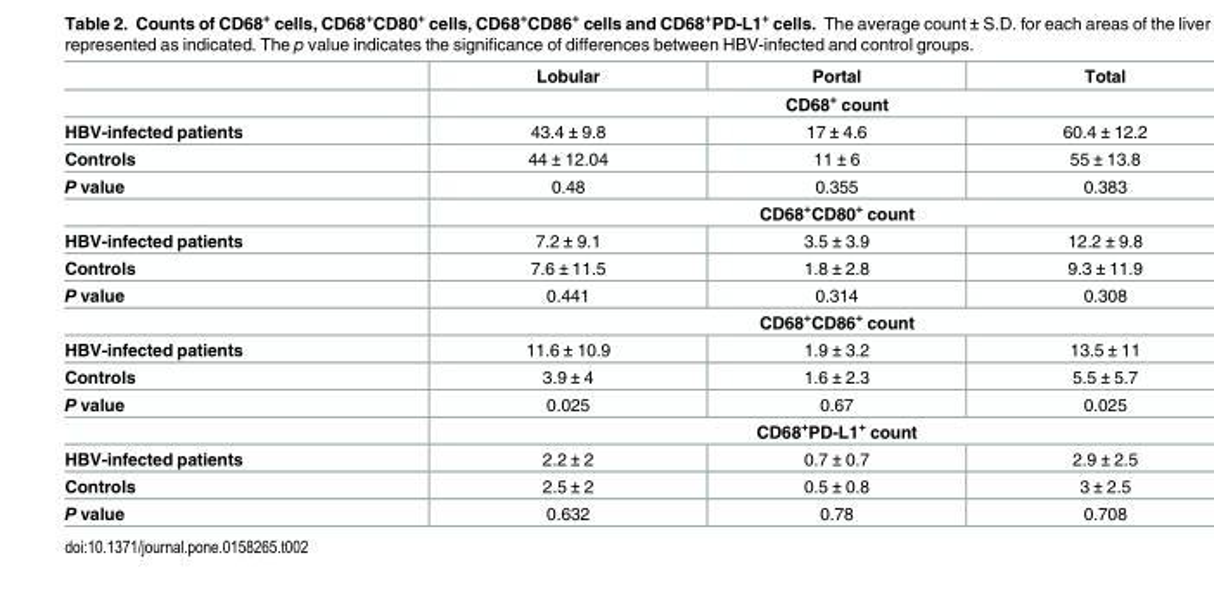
<table><thead><tr><td></td><td>Lobular</td><td>Portal</td><td>Total</td></tr></thead><tbody><tr><td></td><td colspan="3">CD68<sup>+</sup> count</td></tr><tr><td>HBV-infected patients</td><td>43.4 ± 9.8</td><td>17 ± 4.6</td><td>60.4 ± 12.2</td></tr><tr><td>Controls</td><td>44 ± 12.04</td><td>11 ± 6</td><td>55 ± 13.8</td></tr><tr><td rowspan="2">P value</td><td>0.48</td><td>0.355</td><td>0.383</td></tr><tr><td colspan="3">CD68<sup>+</sup>CD80<sup>+</sup> count</td></tr><tr><td>HBV-infected patients</td><td>7.2 ± 9.1</td><td>3.5 ± 3.9</td><td>12.2 ± 9.8</td></tr><tr><td>Controls</td><td>7.6 ± 11.5</td><td>1.8 ± 2.8</td><td>9.3 ± 11.9</td></tr><tr><td rowspan="2">P value</td><td>0.441</td><td>0.314</td><td>0.308</td></tr><tr><td colspan="3">CD68<sup>+</sup>CD86<sup>+</sup> count</td></tr><tr><td>HBV-infected patients</td><td>11.6 ± 10.9</td><td>1.9 ± 3.2</td><td>13.5 ± 11</td></tr><tr><td>Controls</td><td>3.9 ± 4</td><td>1.6 ± 2.3</td><td>5.5 ± 5.7</td></tr><tr><td rowspan="2">P value</td><td>0.025</td><td>0.67</td><td>0.025</td></tr><tr><td colspan="3">CD68<sup>+</sup>PD-L1<sup>+</sup> count</td></tr><tr><td>HBV-infected patients</td><td>2.2 ± 2</td><td>0.7 ± 0.7</td><td>2.9 ± 2.5</td></tr><tr><td>Controls</td><td>2.5 ± 2</td><td>0.5 ± 0.8</td><td>3 ± 2.5</td></tr><tr><td>P value</td><td>0.632</td><td>0.78</td><td>0.708</td></tr></tbody></table>